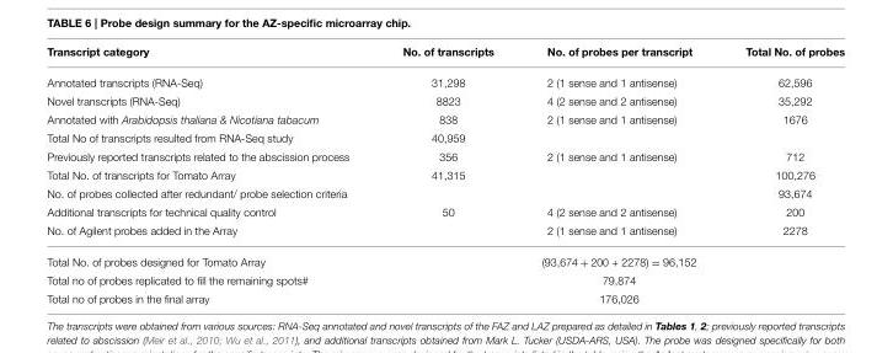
<table><thead><tr><td>Transcript category</td><td>No. of transcripts</td><td>No. of probes per transcript</td><td>Total No. of probes</td></tr></thead><tbody><tr><td>Annotated transcripts (RNA-Seq)</td><td>31,298</td><td>2 (1 sense and 1 antisense)</td><td>62,596</td></tr><tr><td>Novel transcripts (RNA-Seq)</td><td>8823</td><td>4 (2 sense and 2 antisense)</td><td>35,292</td></tr><tr><td>Annotated with Arabidopsis thaliana &amp; Nicotiana tabacum</td><td>838</td><td>2 (1 sense and 1 antisense)</td><td>1676</td></tr><tr><td>Total No of transcripts resulted from RNA-Seq study</td><td>40,959</td><td></td><td></td></tr><tr><td>Previously reported transcripts related to the abscission process</td><td>356</td><td>2 (1 sense and 1 antisense)</td><td>712</td></tr><tr><td>Total No. of transcripts for Tomato Array</td><td>41,315</td><td></td><td>100,276</td></tr><tr><td>No. of probes collected after redundant/ probe selection criteria</td><td></td><td></td><td>93,674</td></tr><tr><td>Additional transcripts for technical quality control</td><td>50</td><td>4 (2 sense and 2 antisense)</td><td>200</td></tr><tr><td>No. of Agilent probes added in the Array</td><td></td><td>2 (1 sense and 1 antisense)</td><td>2278</td></tr><tr><td>Total No. of probes designed for Tomato Array</td><td colspan="3">(93,674 + 200 + 2278) = 96,152</td></tr><tr><td>Total no of probes replicated to fill the remaining spots#</td><td colspan="3">79,874</td></tr><tr><td>Total no of probes in the final array</td><td colspan="3">176,026</td></tr></tbody></table>